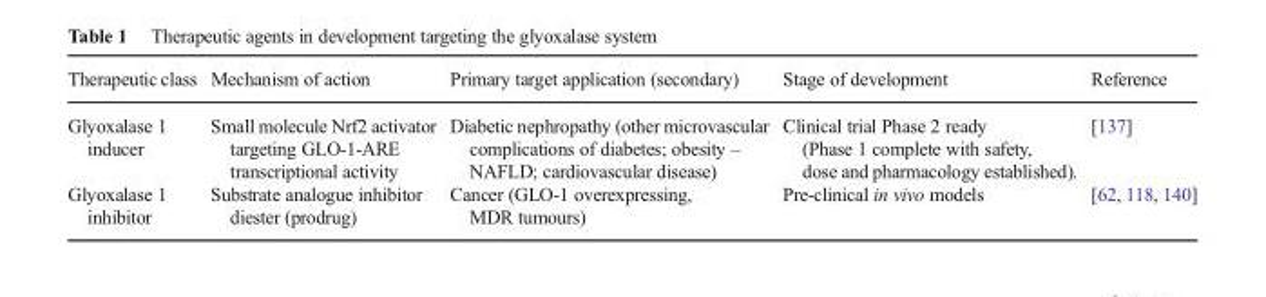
<table><thead><tr><td>Therapeutic class</td><td>Mechanism of action</td><td>Primary target application (secondary)</td><td>Stage of development</td><td>Reference</td></tr></thead><tbody><tr><td>Glyoxalase 1 inducer</td><td>Small molecule Nrf2 activator targeting GLO-1-ARE transcriptional activity</td><td>Diabetic nephropathy (other microvascular complications of diabetes; obesity – NAFLD; cardiovascular disease)</td><td>Clinical trial Phase 2 ready (Phase 1 complete with safety, dose and pharmacology established).</td><td>[137]</td></tr><tr><td>Glyoxalase 1 inhibitor</td><td>Substrate analogue inhibitor diester (prodrug)</td><td>Cancer (GLO-1 overexpressing, MDR tumours)</td><td>Pre-clinical in vivo models</td><td>[62, 118, 140]</td></tr></tbody></table>